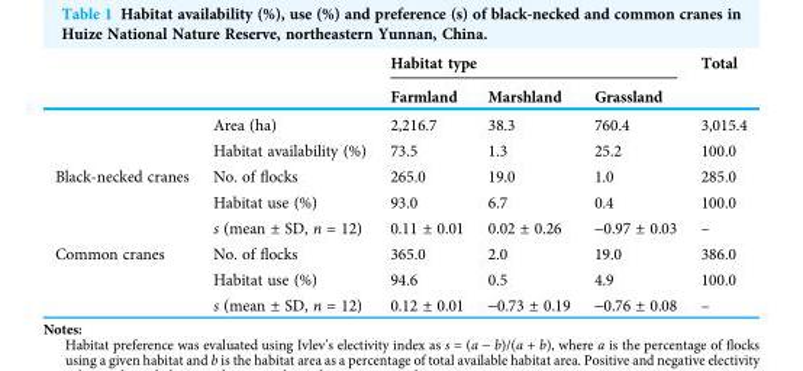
<table><thead><tr><td rowspan="2"></td><td rowspan="2"></td><td colspan="3">Habitat type</td><td rowspan="2">Total</td></tr><tr><td>Farmland</td><td>Marshland</td><td>Grassland</td></tr></thead><tbody><tr><td rowspan="2"></td><td>Area (ha)</td><td>2,216.7</td><td>38.3</td><td>760.4</td><td>3,015.4</td></tr><tr><td>Habitat availability (%)</td><td>73.5</td><td>1.3</td><td>25.2</td><td>100.0</td></tr><tr><td rowspan="3">Black-necked cranes</td><td>No. of flocks</td><td>265.0</td><td>19.0</td><td>1.0</td><td>285.0</td></tr><tr><td>Habitat use (%)</td><td>93.0</td><td>6.7</td><td>0.4</td><td>100.0</td></tr><tr><td>s (mean ± SD, n = 12)</td><td>0.11 ± 0.01</td><td>0.02 ± 0.26</td><td>-0.97 ± 0.03</td><td>–</td></tr><tr><td rowspan="3">Common cranes</td><td>No. of flocks</td><td>365.0</td><td>2.0</td><td>19.0</td><td>386.0</td></tr><tr><td>Habitat use (%)</td><td>94.6</td><td>0.5</td><td>4.9</td><td>100.0</td></tr><tr><td>s (mean ± SD, n = 12)</td><td>0.12 ± 0.01</td><td>-0.73 ± 0.19</td><td>-0.76 ± 0.08</td><td>–</td></tr></tbody></table>